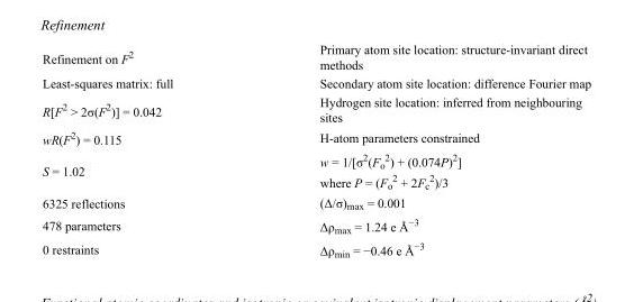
<table><tbody><tr><td>Refinement on F<sup>2</sup></td><td>Primary atom site location: structure-invariant direct methods</td></tr><tr><td>Least-squares matrix: full</td><td>Secondary atom site location: difference Fourier map</td></tr><tr><td>R[F<sup>2</sup> &gt; 2σ(F<sup>2</sup>)] = 0.042</td><td>Hydrogen site location: inferred from neighbouring sites</td></tr><tr><td>wR(F<sup>2</sup>) = 0.115</td><td>H-atom parameters constrained</td></tr><tr><td>S = 1.02</td><td>w = 1/[σ<sup>2</sup>(F<sub>o</sub> <sup>2</sup>) + (0.074P)<sup>2</sup>] where P = (F<sub>o</sub> <sup>2</sup> + 2F<sub>c</sub> <sup>2</sup>)/3</td></tr><tr><td>6325 reflections</td><td>(Δ/σ)<sub>max</sub> = 0.001</td></tr><tr><td>478 parameters</td><td>Δρ<sub>max</sub> = 1.24 e Å<sup>−3</sup></td></tr><tr><td>0 restraints</td><td>Δρ<sub>min</sub> = −0.46 e Å<sup>−3</sup></td></tr></tbody></table>